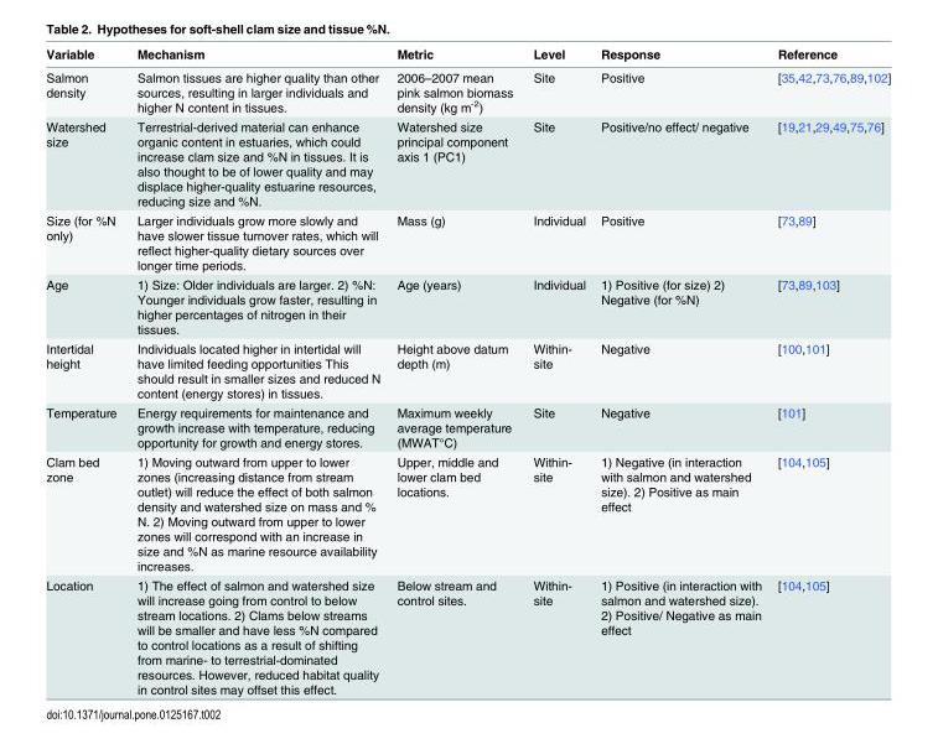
<table><thead><tr><td>Variable</td><td>Mechanism</td><td>Metric</td><td>Level</td><td>Response</td><td>Reference</td></tr></thead><tbody><tr><td>Salmon density</td><td>Salmon tissues are higher quality than other sources, resulting in larger individuals and higher N content in tissues.</td><td>2006–2007 mean pink salmon biomass density (kg m<sup>-2</sup>)</td><td>Site</td><td>Positive</td><td>[35,42,73,76,89,102]</td></tr><tr><td>Watershed size</td><td>Terrestrial-derived material can enhance organic content in estuaries, which could increase clam size and %N in tissues. It is also thought to be of lower quality and may displace higher-quality estuarine resources, reducing size and %N.</td><td>Watershed size principal component axis 1 (PC1)</td><td>Site</td><td>Positive/no effect/ negative</td><td>[19,21,29,49,75,76]</td></tr><tr><td>Size (for %N only)</td><td>Larger individuals grow more slowly and have slower tissue turnover rates, which will reflect higher-quality dietary sources over longer time periods.</td><td>Mass (g)</td><td>Individual</td><td>Positive</td><td>[73,89]</td></tr><tr><td>Age</td><td>1) Size: Older individuals are larger. 2) %N: Younger individuals grow faster, resulting in higher percentages of nitrogen in their tissues.</td><td>Age (years)</td><td>Individual</td><td>1) Positive (for size) 2) Negative (for %N)</td><td>[73,89,103]</td></tr><tr><td>Intertidal height</td><td>Individuals located higher in intertidal will have limited feeding opportunities This should result in smaller sizes and reduced N content (energy stores) in tissues.</td><td>Height above datum depth (m)</td><td>Within- site</td><td>Negative</td><td>[100,101]</td></tr><tr><td>Temperature</td><td>Energy requirements for maintenance and growth increase with temperature, reducing opportunity for growth and energy stores.</td><td>Maximum weekly average temperature (MWAT°C)</td><td>Site</td><td>Negative</td><td>[101]</td></tr><tr><td>Clam bed zone</td><td>1) Moving outward from upper to lower zones (increasing distance from stream outlet) will reduce the effect of both salmon density and watershed size on mass and % N. 2) Moving outward from upper to lower zones will correspond with an increase in size and %N as marine resource availability increases.</td><td>Upper, middle and lower clam bed locations.</td><td>Within- site</td><td>1) Negative (in interaction with salmon and watershed size). 2) Positive as main effect</td><td>[104,105]</td></tr><tr><td>Location</td><td>1) The effect of salmon and watershed size will increase going from control to below stream locations. 2) Clams below streams will be smaller and have less %N compared to control locations as a result of shifting from marine- to terrestrial-dominated resources. However, reduced habitat quality in control sites may offset this effect.</td><td>Below stream and control sites.</td><td>Within- site</td><td>1) Positive (in interaction with salmon and watershed size). 2) Positive/ Negative as main effect</td><td>[104,105]</td></tr></tbody></table>